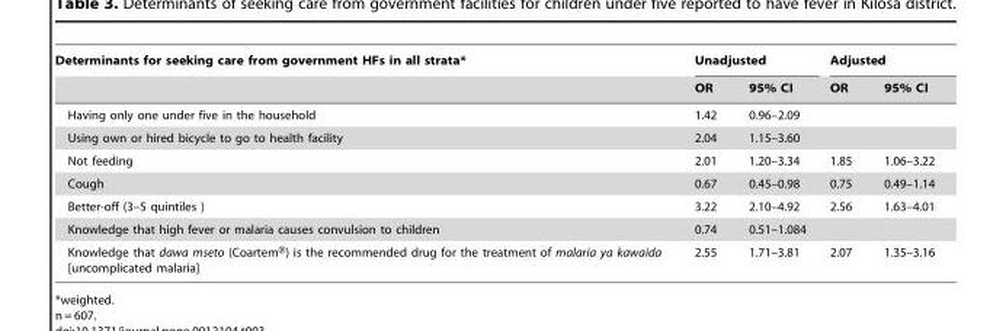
<table><thead><tr><td rowspan="2">Determinants for seeking care from government HFs in all strata*</td><td colspan="2">Unadjusted</td><td colspan="2">Adjusted</td></tr><tr><td>OR</td><td>95% CI</td><td>OR</td><td>95% CI</td></tr></thead><tbody><tr><td>Having only one under five in the household</td><td>1.42</td><td>0.96–2.09</td><td></td><td></td></tr><tr><td>Using own or hired bicycle to go to health facility</td><td>2.04</td><td>1.15–3.60</td><td></td><td></td></tr><tr><td>Not feeding</td><td>2.01</td><td>1.20–3.34</td><td>1.85</td><td>1.06–3.22</td></tr><tr><td>Cough</td><td>0.67</td><td>0.45–0.98</td><td>0.75</td><td>0.49–1.14</td></tr><tr><td>Better-off (3–5 quintiles )</td><td>3.22</td><td>2.10–4.92</td><td>2.56</td><td>1.63–4.01</td></tr><tr><td>Knowledge that high fever or malaria causes convulsion to children</td><td>0.74</td><td>0.51–1.084</td><td></td><td></td></tr><tr><td>Knowledge that dawa mseto (Coartem®) is the recommended drug for the treatment of malaria ya kawaida [uncomplicated malaria]</td><td>2.55</td><td>1.71–3.81</td><td>2.07</td><td>1.35–3.16</td></tr></tbody></table>